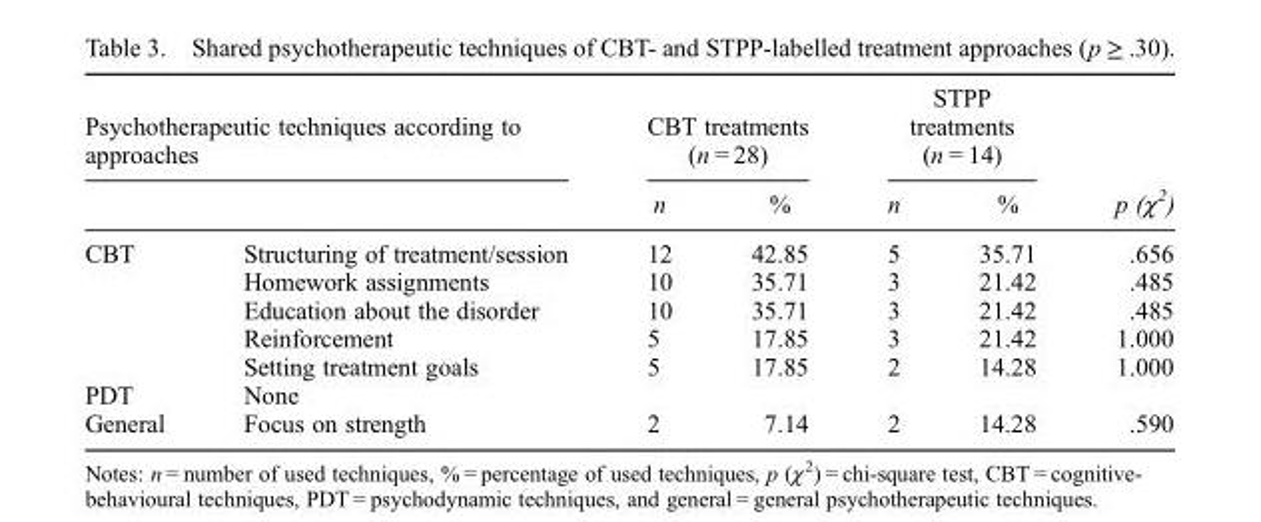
<table><thead><tr><td colspan="2">Psychotherapeutic techniques according to approaches</td><td colspan="2">CBT treatments (n = 28)</td><td colspan="2">STPP treatments (n = 14)</td><td rowspan="2">p (χ<sup>2</sup>)</td></tr><tr><td></td><td></td><td>n</td><td>%</td><td>n</td><td>%</td></tr></thead><tbody><tr><td rowspan="5">CBT</td><td>Structuring of treatment/session</td><td>12</td><td>42.85</td><td>5</td><td>35.71</td><td>.656</td></tr><tr><td>Homework assignments</td><td>10</td><td>35.71</td><td>3</td><td>21.42</td><td>.485</td></tr><tr><td>Education about the disorder</td><td>10</td><td>35.71</td><td>3</td><td>21.42</td><td>.485</td></tr><tr><td>Reinforcement</td><td>5</td><td>17.85</td><td>3</td><td>21.42</td><td>1.000</td></tr><tr><td>Setting treatment goals</td><td>5</td><td>17.85</td><td>2</td><td>14.28</td><td>1.000</td></tr><tr><td>PDT</td><td>None</td><td></td><td></td><td></td><td></td><td></td></tr><tr><td>General</td><td>Focus on strength</td><td>2</td><td>7.14</td><td>2</td><td>14.28</td><td>.590</td></tr></tbody></table>